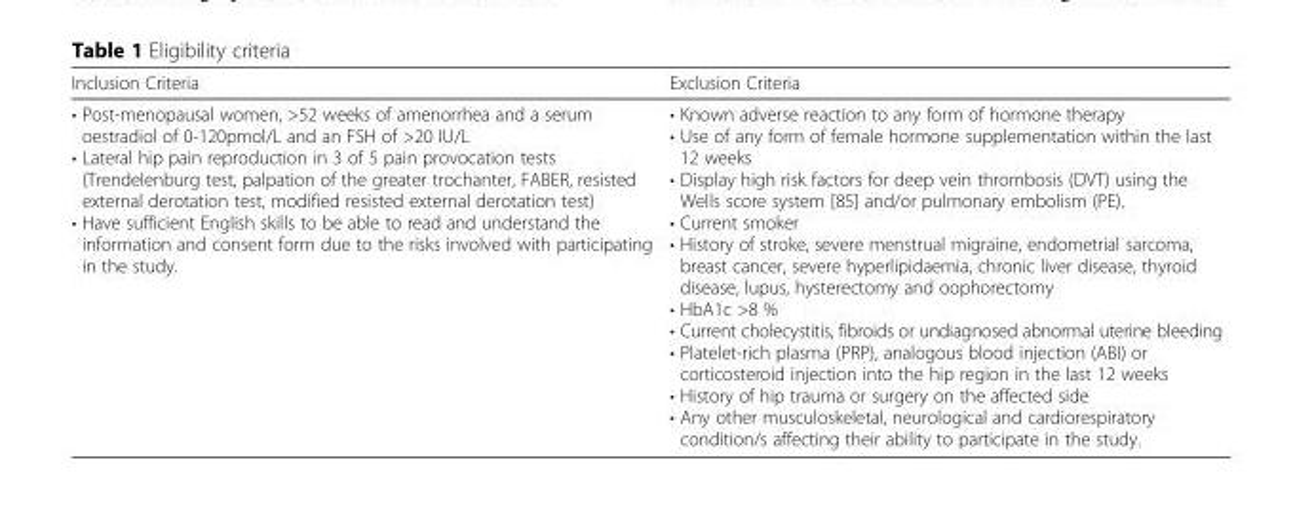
<table><thead><tr><td>Inclusion Criteria</td><td>Exclusion Criteria</td></tr></thead><tbody><tr><td>• Post-menopausal women, &gt;52 weeks of amenorrhea and a serum oestradiol of 0-120pmol/L and an FSH of &gt;20 IU/L • Lateral hip pain reproduction in 3 of 5 pain provocation tests (Trendelenburg test, palpation of the greater trochanter, FABER, resisted external derotation test, modified resisted external derotation test) • Have sufficient English skills to be able to read and understand the information and consent form due to the risks involved with participating in the study.</td><td>• Known adverse reaction to any form of hormone therapy • Use of any form of female hormone supplementation within the last 12 weeks • Display high risk factors for deep vein thrombosis (DVT) using the Wells score system [85] and/or pulmonary embolism (PE). • Current smoker • History of stroke, severe menstrual migraine, endometrial sarcoma, breast cancer, severe hyperlipidaemia, chronic liver disease, thyroid disease, lupus, hysterectomy and oophorectomy • HbA1c &gt;8 % • Current cholecystitis, fibroids or undiagnosed abnormal uterine bleeding • Platelet-rich plasma (PRP), analogous blood injection (ABI) or corticosteroid injection into the hip region in the last 12 weeks • History of hip trauma or surgery on the affected side • Any other musculoskeletal, neurological and cardiorespiratory condition/s affecting their ability to participate in the study.</td></tr></tbody></table>